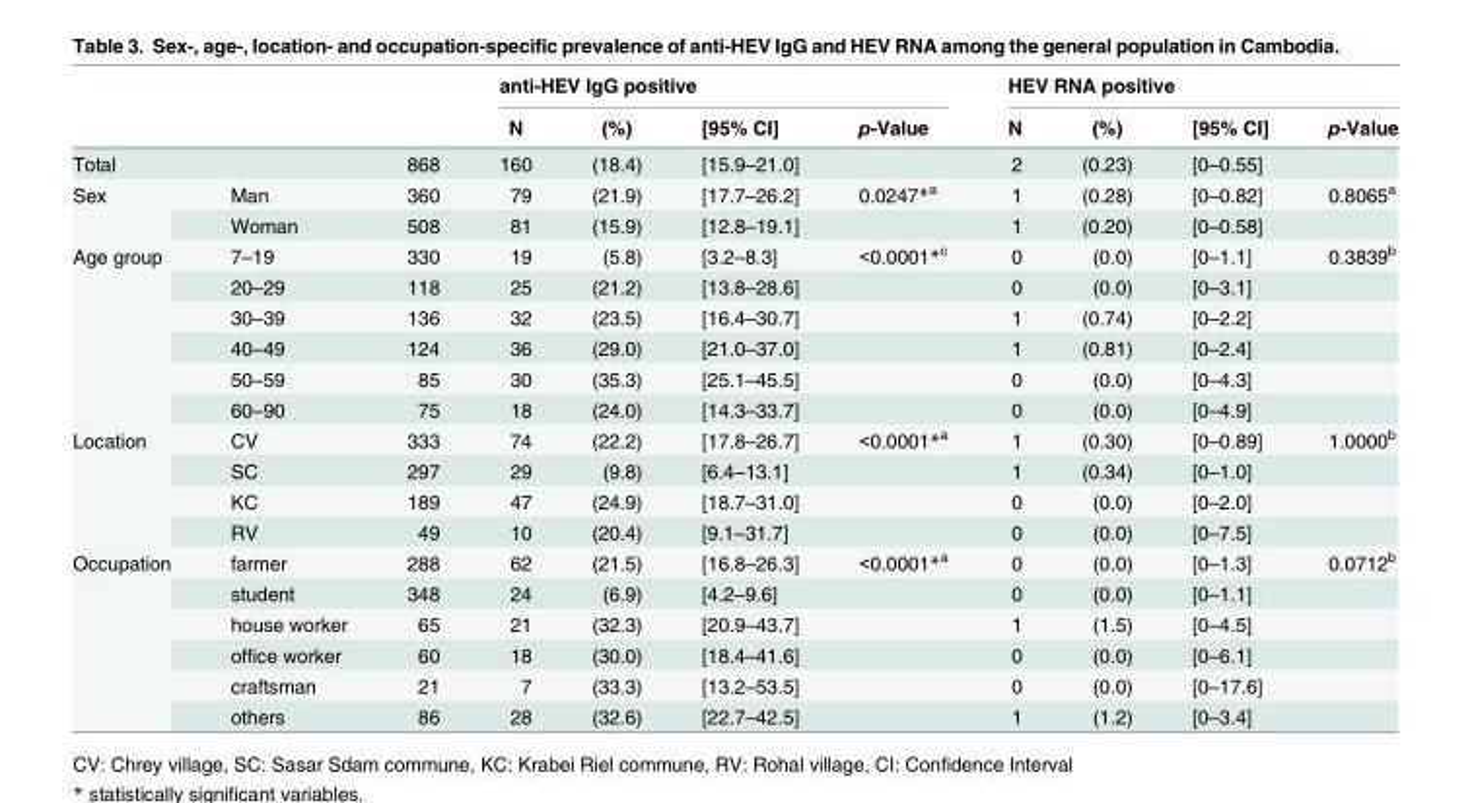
<table><thead><tr><td rowspan="2"></td><td rowspan="2"></td><td rowspan="2"></td><td colspan="4">anti-HEV IgG positive</td><td colspan="4">HEV RNA positive</td></tr><tr><td>N</td><td>(%)</td><td>[95% CI]</td><td>p-Value</td><td>N</td><td>(%)</td><td>[95% CI]</td><td>p-Value</td></tr></thead><tbody><tr><td colspan="2">Total</td><td>868</td><td>160</td><td>(18.4)</td><td>[15.9–21.0]</td><td></td><td>2</td><td>(0.23)</td><td>[0–0.55]</td><td></td></tr><tr><td rowspan="2">Sex</td><td>Man</td><td>360</td><td>79</td><td>(21.9)</td><td>[17.7–26.2]</td><td>0.0247*<sup>a</sup></td><td>1</td><td>(0.28)</td><td>[0–0.82]</td><td>0.8065<sup>a</sup></td></tr><tr><td>Woman</td><td>508</td><td>81</td><td>(15.9)</td><td>[12.8–19.1]</td><td></td><td>1</td><td>(0.20)</td><td>[0–0.58]</td><td></td></tr><tr><td rowspan="6">Age group</td><td>7–19</td><td>330</td><td>19</td><td>(5.8)</td><td>[3.2–8.3]</td><td>&lt;0.0001*<sup>c</sup></td><td>0</td><td>(0.0)</td><td>[0–1.1]</td><td>0.3839<sup>b</sup></td></tr><tr><td>20–29</td><td>118</td><td>25</td><td>(21.2)</td><td>[13.8–28.6]</td><td></td><td>0</td><td>(0.0)</td><td>[0–3.1]</td><td></td></tr><tr><td>30–39</td><td>136</td><td>32</td><td>(23.5)</td><td>[16.4–30.7]</td><td></td><td>1</td><td>(0.74)</td><td>[0–2.2]</td><td></td></tr><tr><td>40–49</td><td>124</td><td>36</td><td>(29.0)</td><td>[21.0–37.0]</td><td></td><td>1</td><td>(0.81)</td><td>[0–2.4]</td><td></td></tr><tr><td>50–59</td><td>85</td><td>30</td><td>(35.3)</td><td>[25.1–45.5]</td><td></td><td>0</td><td>(0.0)</td><td>[0–4.3]</td><td></td></tr><tr><td>60–90</td><td>75</td><td>18</td><td>(24.0)</td><td>[14.3–33.7]</td><td></td><td>0</td><td>(0.0)</td><td>[0–4.9]</td><td></td></tr><tr><td rowspan="4">Location</td><td>CV</td><td>333</td><td>74</td><td>(22.2)</td><td>[17.8–26.7]</td><td>&lt;0.0001*<sup>a</sup></td><td>1</td><td>(0.30)</td><td>[0–0.89]</td><td>1.0000<sup>b</sup></td></tr><tr><td>SC</td><td>297</td><td>29</td><td>(9.8)</td><td>[6.4–13.1]</td><td></td><td>1</td><td>(0.34)</td><td>[0–1.0]</td><td></td></tr><tr><td>KC</td><td>189</td><td>47</td><td>(24.9)</td><td>[18.7–31.0]</td><td></td><td>0</td><td>(0.0)</td><td>[0–2.0]</td><td></td></tr><tr><td>RV</td><td>49</td><td>10</td><td>(20.4)</td><td>[9.1–31.7]</td><td></td><td>0</td><td>(0.0)</td><td>[0–7.5]</td><td></td></tr><tr><td rowspan="6">Occupation</td><td>farmer</td><td>288</td><td>62</td><td>(21.5)</td><td>[16.8–26.3]</td><td>&lt;0.0001*<sup>a</sup></td><td>0</td><td>(0.0)</td><td>[0–1.3]</td><td>0.0712<sup>b</sup></td></tr><tr><td>student</td><td>348</td><td>24</td><td>(6.9)</td><td>[4.2–9.6]</td><td></td><td>0</td><td>(0.0)</td><td>[0–1.1]</td><td></td></tr><tr><td>house worker</td><td>65</td><td>21</td><td>(32.3)</td><td>[20.9–43.7]</td><td></td><td>1</td><td>(1.5)</td><td>[0–4.5]</td><td></td></tr><tr><td>office worker</td><td>60</td><td>18</td><td>(30.0)</td><td>[18.4–41.6]</td><td></td><td>0</td><td>(0.0)</td><td>[0–6.1]</td><td></td></tr><tr><td>craftsman</td><td>21</td><td>7</td><td>(33.3)</td><td>[13.2–53.5]</td><td></td><td>0</td><td>(0.0)</td><td>[0–17.6]</td><td></td></tr><tr><td>others</td><td>86</td><td>28</td><td>(32.6)</td><td>[22.7–42.5]</td><td></td><td>1</td><td>(1.2)</td><td>[0–3.4]</td><td></td></tr></tbody></table>